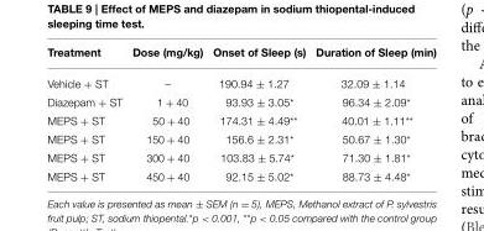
<table><thead><tr><td>Treatment</td><td>Dose (mg/kg)</td><td>Onset of Sleep (s)</td><td>Duration of Sleep (min)</td></tr></thead><tbody><tr><td>Vehicle + ST</td><td>–</td><td>190.94 ± 1.27</td><td>32.09 ± 1.14</td></tr><tr><td>Diazepam + ST</td><td>1 + 40</td><td>93.93 ± 3.05*</td><td>96.34 ± 2.09*</td></tr><tr><td>MEPS + ST</td><td>50 + 40</td><td>174.31 ± 4.49**</td><td>40.01 ± 1.11**</td></tr><tr><td>MEPS + ST</td><td>150 + 40</td><td>156.6 ± 2.31*</td><td>50.67 ± 1.30*</td></tr><tr><td>MEPS + ST</td><td>300 + 40</td><td>103.83 ± 5.74*</td><td>71.30 ± 1.81*</td></tr><tr><td>MEPS + ST</td><td>450 + 40</td><td>92.15 ± 5.02*</td><td>88.73 ± 4.48*</td></tr></tbody></table>